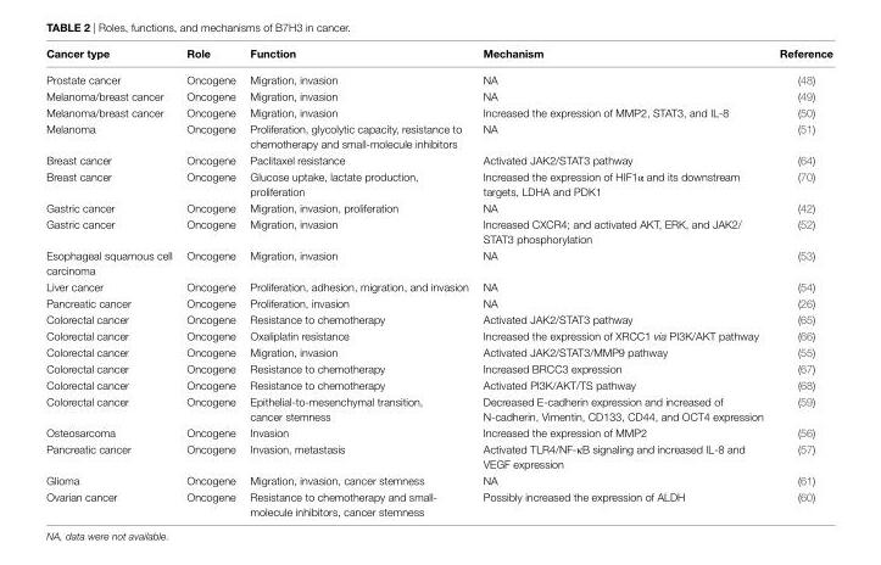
<table><thead><tr><td>Cancer type</td><td>Role</td><td>Function</td><td>Mechanism</td><td>Reference</td></tr></thead><tbody><tr><td>Prostate cancer</td><td>Oncogene</td><td>Migration, invasion</td><td>NA</td><td>(48)</td></tr><tr><td>Melanoma/breast cancer</td><td>Oncogene</td><td>Migration, invasion</td><td>NA</td><td>(49)</td></tr><tr><td>Melanoma/breast cancer</td><td>Oncogene</td><td>Migration, invasion</td><td>Increased the expression of MMP2, STAT3, and IL-8</td><td>(50)</td></tr><tr><td>Melanoma</td><td>Oncogene</td><td>Proliferation, glycolytic capacity, resistance to chemotherapy and small-molecule inhibitors</td><td>NA</td><td>(51)</td></tr><tr><td>Breast cancer</td><td>Oncogene</td><td>Paclitaxel resistance</td><td>Activated JAK2/STAT3 pathway</td><td>(64)</td></tr><tr><td>Breast cancer</td><td>Oncogene</td><td>Glucose uptake, lactate production, proliferation</td><td>Increased the expression of HIF1α and its downstream targets, LDHA and PDK1</td><td>(70)</td></tr><tr><td>Gastric cancer</td><td>Oncogene</td><td>Migration, invasion, proliferation</td><td>NA</td><td>(42)</td></tr><tr><td>Gastric cancer</td><td>Oncogene</td><td>Migration, invasion</td><td>Increased CXCR4; and activated AKT, ERK, and JAK2/ STAT3 phosphorylation</td><td>(52)</td></tr><tr><td>Esophageal squamous cell carcinoma</td><td>Oncogene</td><td>Migration, invasion</td><td>NA</td><td>(53)</td></tr><tr><td>Liver cancer</td><td>Oncogene</td><td>Proliferation, adhesion, migration, and invasion</td><td>NA</td><td>(54)</td></tr><tr><td>Pancreatic cancer</td><td>Oncogene</td><td>Proliferation, invasion</td><td>NA</td><td>(26)</td></tr><tr><td>Colorectal cancer</td><td>Oncogene</td><td>Resistance to chemotherapy</td><td>Activated JAK2/STAT3 pathway</td><td>(65)</td></tr><tr><td>Colorectal cancer</td><td>Oncogene</td><td>Oxaliplatin resistance</td><td>Increased the expression of XRCC1 via PI3K/AKT pathway</td><td>(66)</td></tr><tr><td>Colorectal cancer</td><td>Oncogene</td><td>Migration, invasion</td><td>Activated JAK2/STAT3/MMP9 pathway</td><td>(55)</td></tr><tr><td>Colorectal cancer</td><td>Oncogene</td><td>Resistance to chemotherapy</td><td>Increased BRCC3 expression</td><td>(67)</td></tr><tr><td>Colorectal cancer</td><td>Oncogene</td><td>Resistance to chemotherapy</td><td>Activated PI3K/AKT/TS pathway</td><td>(68)</td></tr><tr><td>Colorectal cancer</td><td>Oncogene</td><td>Epithelial-to-mesenchymal transition, cancer stemness</td><td>Decreased E-cadherin expression and increased of N-cadherin, Vimentin, CD133, CD44, and OCT4 expression</td><td>(59)</td></tr><tr><td>Osteosarcoma</td><td>Oncogene</td><td>Invasion</td><td>Increased the expression of MMP2</td><td>(56)</td></tr><tr><td>Pancreatic cancer</td><td>Oncogene</td><td>Invasion, metastasis</td><td>Activated TLR4/NF-κB signaling and increased IL-8 and VEGF expression</td><td>(57)</td></tr><tr><td>Glioma</td><td>Oncogene</td><td>Migration, invasion, cancer stemness</td><td>NA</td><td>(61)</td></tr><tr><td>Ovarian cancer</td><td>Oncogene</td><td>Resistance to chemotherapy and small- molecule inhibitors, cancer stemness</td><td>Possibly increased the expression of ALDH</td><td>(60)</td></tr></tbody></table>